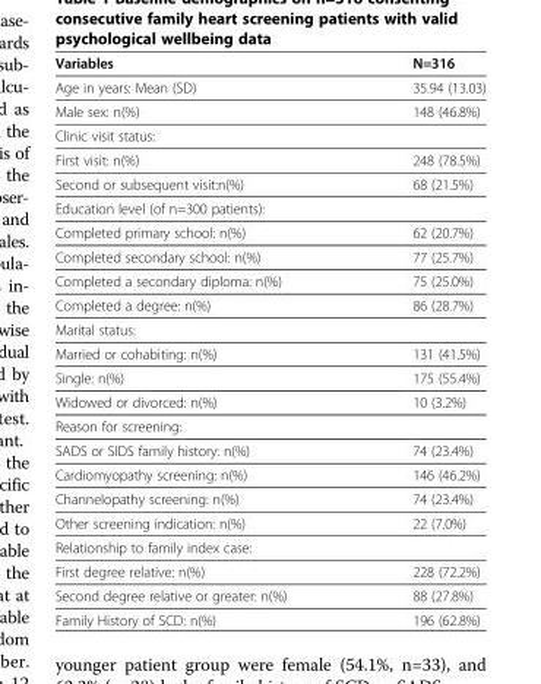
<table><thead><tr><td>Variables</td><td>N=316</td></tr></thead><tbody><tr><td>Age in years: Mean (SD)</td><td>35.94 (13.03)</td></tr><tr><td>Male sex: n(%)</td><td>148 (46.8%)</td></tr><tr><td colspan="2">Clinic visit status:</td></tr><tr><td>First visit: n(%)</td><td>248 (78.5%)</td></tr><tr><td>Second or subsequent visit:n(%)</td><td>68 (21.5%)</td></tr><tr><td colspan="2">Education level (of n=300 patients):</td></tr><tr><td>Completed primary school: n(%)</td><td>62 (20.7%)</td></tr><tr><td>Completed secondary school: n(%)</td><td>77 (25.7%)</td></tr><tr><td>Completed a secondary diploma: n(%)</td><td>75 (25.0%)</td></tr><tr><td>Completed a degree: n(%)</td><td>86 (28.7%)</td></tr><tr><td colspan="2">Marital status:</td></tr><tr><td>Married or cohabiting: n(%)</td><td>131 (41.5%)</td></tr><tr><td>Single: n(%)</td><td>175 (55.4%)</td></tr><tr><td>Widowed or divorced: n(%)</td><td>10 (3.2%)</td></tr><tr><td colspan="2">Reason for screening:</td></tr><tr><td>SADS or SIDS family history: n(%)</td><td>74 (23.4%)</td></tr><tr><td>Cardiomyopathy screening: n(%)</td><td>146 (46.2%)</td></tr><tr><td>Channelopathy screening: n(%)</td><td>74 (23.4%)</td></tr><tr><td>Other screening indication: n(%)</td><td>22 (7.0%)</td></tr><tr><td colspan="2">Relationship to family index case:</td></tr><tr><td>First degree relative: n(%)</td><td>228 (72.2%)</td></tr><tr><td>Second degree relative or greater: n(%)</td><td>88 (27.8%)</td></tr><tr><td>Family History of SCD: n(%)</td><td>196 (62.8%)</td></tr></tbody></table>